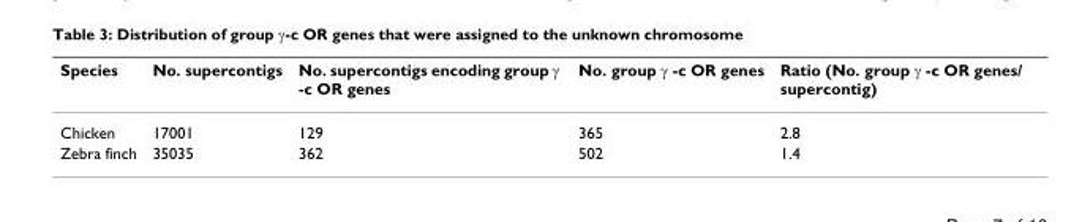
<table><thead><tr><td>Species</td><td>No. supercontigs</td><td>No. supercontigs encoding group γ -c OR genes</td><td>No. group γ -c OR genes</td><td>Ratio (No. group γ -c OR genes/ supercontig)</td></tr></thead><tbody><tr><td>Chicken</td><td>17001</td><td>129</td><td>365</td><td>2.8</td></tr><tr><td>Zebra finch</td><td>35035</td><td>362</td><td>502</td><td>1.4</td></tr></tbody></table>